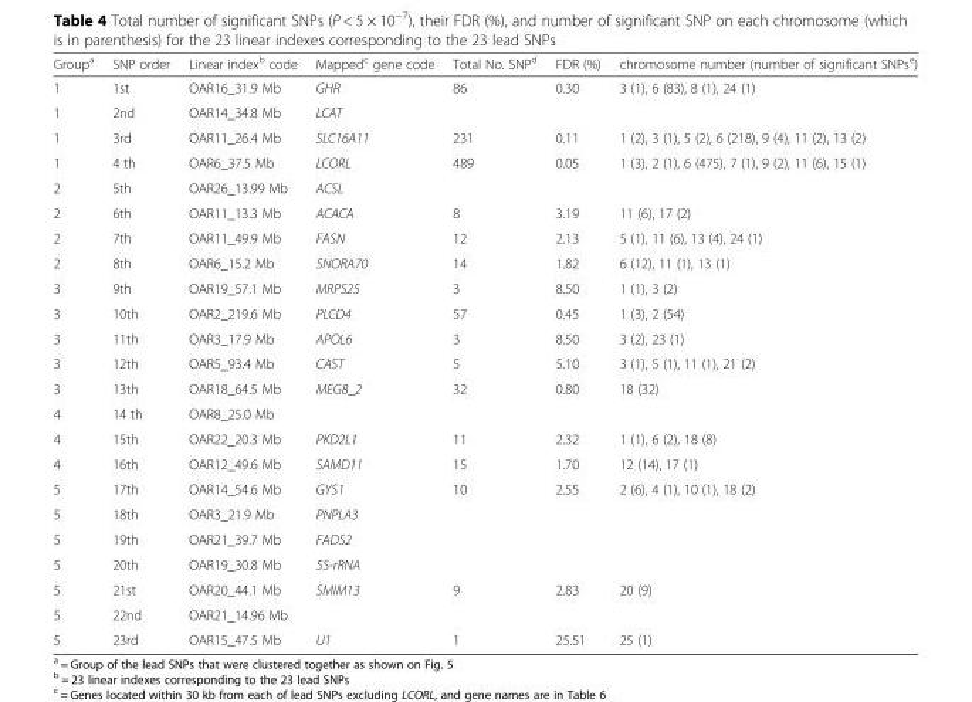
<table><thead><tr><td>Group<sup>a</sup></td><td>SNP order</td><td>Linear index<sup>b</sup> code</td><td>Mapped<sup>c</sup> gene code</td><td>Total No. SNP<sup>d</sup></td><td>FDR (%)</td><td>chromosome number (number of significant SNPs<sup>e</sup>)</td></tr></thead><tbody><tr><td>1</td><td>1st</td><td>OAR16_31.9 Mb</td><td>GHR</td><td>86</td><td>0.30</td><td>3 (1), 6 (83), 8 (1), 24 (1)</td></tr><tr><td>1</td><td>2nd</td><td>OAR14_34.8 Mb</td><td>LCAT</td><td></td><td></td><td></td></tr><tr><td>1</td><td>3rd</td><td>OAR11_26.4 Mb</td><td>SLC16A11</td><td>231</td><td>0.11</td><td>1 (2), 3 (1), 5 (2), 6 (218), 9 (4), 11 (2), 13 (2)</td></tr><tr><td>1</td><td>4 th</td><td>OAR6_37.5 Mb</td><td>LCORL</td><td>489</td><td>0.05</td><td>1 (3), 2 (1), 6 (475), 7 (1), 9 (2), 11 (6), 15 (1)</td></tr><tr><td>2</td><td>5th</td><td>OAR26_13.99 Mb</td><td>ACSL</td><td></td><td></td><td></td></tr><tr><td>2</td><td>6th</td><td>OAR11_13.3 Mb</td><td>ACACA</td><td>8</td><td>3.19</td><td>11 (6), 17 (2)</td></tr><tr><td>2</td><td>7th</td><td>OAR11_49.9 Mb</td><td>FASN</td><td>12</td><td>2.13</td><td>5 (1), 11 (6), 13 (4), 24 (1)</td></tr><tr><td>2</td><td>8th</td><td>OAR6_15.2 Mb</td><td>SNORA70</td><td>14</td><td>1.82</td><td>6 (12), 11 (1), 13 (1)</td></tr><tr><td>3</td><td>9th</td><td>OAR19_57.1 Mb</td><td>MRPS25</td><td>3</td><td>8.50</td><td>1 (1), 3 (2)</td></tr><tr><td>3</td><td>10th</td><td>OAR2_219.6 Mb</td><td>PLCD4</td><td>57</td><td>0.45</td><td>1 (3), 2 (54)</td></tr><tr><td>3</td><td>11th</td><td>OAR3_17.9 Mb</td><td>APOL6</td><td>3</td><td>8.50</td><td>3 (2), 23 (1)</td></tr><tr><td>3</td><td>12th</td><td>OAR5_93.4 Mb</td><td>CAST</td><td>5</td><td>5.10</td><td>3 (1), 5 (1), 11 (1), 21 (2)</td></tr><tr><td>3</td><td>13th</td><td>OAR18_64.5 Mb</td><td>MEG8_2</td><td>32</td><td>0.80</td><td>18 (32)</td></tr><tr><td>4</td><td>14 th</td><td>OAR8_25.0 Mb</td><td></td><td></td><td></td><td></td></tr><tr><td>4</td><td>15th</td><td>OAR22_20.3 Mb</td><td>PKD2L1</td><td>11</td><td>2.32</td><td>1 (1), 6 (2), 18 (8)</td></tr><tr><td>4</td><td>16th</td><td>OAR12_49.6 Mb</td><td>SAMD11</td><td>15</td><td>1.70</td><td>12 (14), 17 (1)</td></tr><tr><td>5</td><td>17th</td><td>OAR14_54.6 Mb</td><td>GYS1</td><td>10</td><td>2.55</td><td>2 (6), 4 (1), 10 (1), 18 (2)</td></tr><tr><td>5</td><td>18th</td><td>OAR3_21.9 Mb</td><td>PNPLA3</td><td></td><td></td><td></td></tr><tr><td>5</td><td>19th</td><td>OAR21_39.7 Mb</td><td>FADS2</td><td></td><td></td><td></td></tr><tr><td>5</td><td>20th</td><td>OAR19_30.8 Mb</td><td>5S-rRNA</td><td></td><td></td><td></td></tr><tr><td>5</td><td>21st</td><td>OAR20_44.1 Mb</td><td>SMIM13</td><td>9</td><td>2.83</td><td>20 (9)</td></tr><tr><td>5</td><td>22nd</td><td>OAR21_14.96 Mb</td><td></td><td></td><td></td><td></td></tr><tr><td>5</td><td>23rd</td><td>OAR15_47.5 Mb</td><td>U1</td><td>1</td><td>25.51</td><td>25 (1)</td></tr></tbody></table>